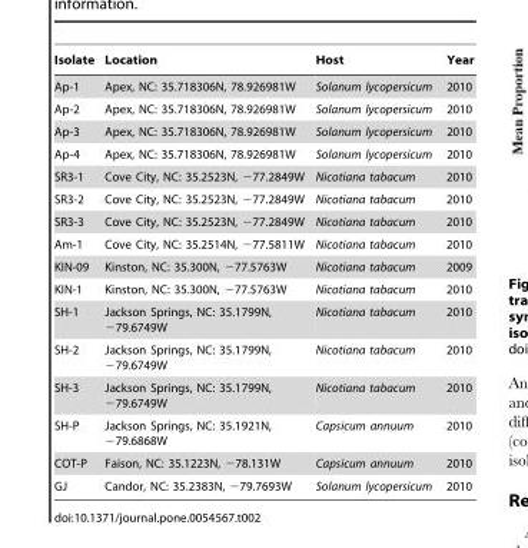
<table><thead><tr><td>Isolate</td><td>Location</td><td>Host</td><td>Year</td></tr></thead><tbody><tr><td>Ap-1</td><td>Apex, NC: 35.718306N, 78.926981W</td><td>Solanum lycopersicum</td><td>2010</td></tr><tr><td>Ap-2</td><td>Apex, NC: 35.718306N, 78.926981W</td><td>Solanum lycopersicum</td><td>2010</td></tr><tr><td>Ap-3</td><td>Apex, NC: 35.718306N, 78.926981W</td><td>Solanum lycopersicum</td><td>2010</td></tr><tr><td>Ap-4</td><td>Apex, NC: 35.718306N, 78.926981W</td><td>Solanum lycopersicum</td><td>2010</td></tr><tr><td>SR3-1</td><td>Cove City, NC: 35.2523N, −77.2849W</td><td>Nicotiana tabacum</td><td>2010</td></tr><tr><td>SR3-2</td><td>Cove City, NC: 35.2523N, −77.2849W</td><td>Nicotiana tabacum</td><td>2010</td></tr><tr><td>SR3-3</td><td>Cove City, NC: 35.2523N, −77.2849W</td><td>Nicotiana tabacum</td><td>2010</td></tr><tr><td>Am-1</td><td>Cove City, NC: 35.2514N, −77.5811W</td><td>Nicotiana tabacum</td><td>2010</td></tr><tr><td>KIN-09</td><td>Kinston, NC: 35.300N, −77.5763W</td><td>Nicotiana tabacum</td><td>2009</td></tr><tr><td>KIN-1</td><td>Kinston, NC: 35.300N, −77.5763W</td><td>Nicotiana tabacum</td><td>2010</td></tr><tr><td>SH-1</td><td>Jackson Springs, NC: 35.1799N, −79.6749W</td><td>Nicotiana tabacum</td><td>2010</td></tr><tr><td>SH-2</td><td>Jackson Springs, NC: 35.1799N, −79.6749W</td><td>Nicotiana tabacum</td><td>2010</td></tr><tr><td>SH-3</td><td>Jackson Springs, NC: 35.1799N, −79.6749W</td><td>Nicotiana tabacum</td><td>2010</td></tr><tr><td>SH-P</td><td>Jackson Springs, NC: 35.1921N, −79.6868W</td><td>Capsicum annuum</td><td>2010</td></tr><tr><td>COT-P</td><td>Faison, NC: 35.1223N, −78.131W</td><td>Capsicum annuum</td><td>2010</td></tr><tr><td>GJ</td><td>Candor, NC: 35.2383N, −79.7693W</td><td>Solanum lycopersicum</td><td>2010</td></tr></tbody></table>